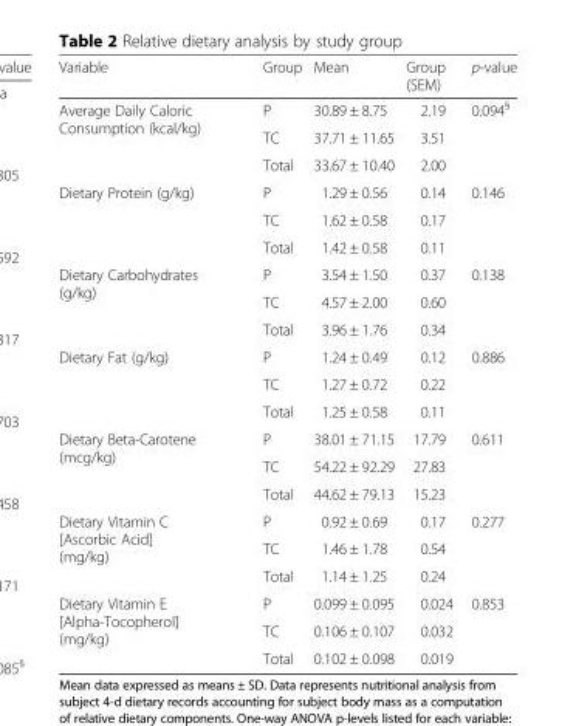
<table><thead><tr><td>Variable</td><td>Group</td><td>Mean</td><td>Group (SEM)</td><td>p-value</td></tr></thead><tbody><tr><td rowspan="3">Average Daily Caloric Consumption (kcal/kg)</td><td>P</td><td>30.89 ± 8.75</td><td>2.19</td><td>0.094<sup>§</sup></td></tr><tr><td>TC</td><td>37.71 ± 11.65</td><td>3.51</td><td></td></tr><tr><td>Total</td><td>33.67 ± 10.40</td><td>2.00</td><td></td></tr><tr><td rowspan="3">Dietary Protein (g/kg)</td><td>P</td><td>1.29 ± 0.56</td><td>0.14</td><td>0.146</td></tr><tr><td>TC</td><td>1.62 ± 0.58</td><td>0.17</td><td></td></tr><tr><td>Total</td><td>1.42 ± 0.58</td><td>0.11</td><td></td></tr><tr><td rowspan="3">Dietary Carbohydrates (g/kg)</td><td>P</td><td>3.54 ± 1.50</td><td>0.37</td><td>0.138</td></tr><tr><td>TC</td><td>4.57 ± 2.00</td><td>0.60</td><td></td></tr><tr><td>Total</td><td>3.96 ± 1.76</td><td>0.34</td><td></td></tr><tr><td rowspan="3">Dietary Fat (g/kg)</td><td>P</td><td>1.24 ± 0.49</td><td>0.12</td><td>0.886</td></tr><tr><td>TC</td><td>1.27 ± 0.72</td><td>0.22</td><td></td></tr><tr><td>Total</td><td>1.25 ± 0.58</td><td>0.11</td><td></td></tr><tr><td rowspan="3">Dietary Beta-Carotene (mcg/kg)</td><td>P</td><td>38.01 ± 71.15</td><td>17.79</td><td>0.611</td></tr><tr><td>TC</td><td>54.22 ± 92.29</td><td>27.83</td><td></td></tr><tr><td>Total</td><td>44.62 ± 79.13</td><td>15.23</td><td></td></tr><tr><td rowspan="3">Dietary Vitamin C [Ascorbic Acid] (mg/kg)</td><td>P</td><td>0.92 ± 0.69</td><td>0.17</td><td>0.277</td></tr><tr><td>TC</td><td>1.46 ± 1.78</td><td>0.54</td><td></td></tr><tr><td>Total</td><td>1.14 ± 1.25</td><td>0.24</td><td></td></tr><tr><td rowspan="3">Dietary Vitamin E [Alpha-Tocopherol] (mg/kg)</td><td>P</td><td>0.099 ± 0.095</td><td>0.024</td><td>0.853</td></tr><tr><td>TC</td><td>0.106 ± 0.107</td><td>0.032</td><td></td></tr><tr><td>Total</td><td>0.102 ± 0.098</td><td>0.019</td><td></td></tr></tbody></table>